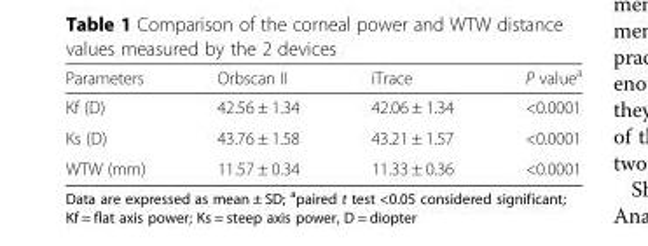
<table><thead><tr><td>Parameters</td><td>Orbscan II</td><td>iTrace</td><td>P value<sup>a</sup></td></tr></thead><tbody><tr><td>Kf (D)</td><td>42.56 ± 1.34</td><td>42.06 ± 1.34</td><td>&lt;0.0001</td></tr><tr><td>Ks (D)</td><td>43.76 ± 1.58</td><td>43.21 ± 1.57</td><td>&lt;0.0001</td></tr><tr><td>WTW (mm)</td><td>11.57 ± 0.34</td><td>11.33 ± 0.36</td><td>&lt;0.0001</td></tr></tbody></table>